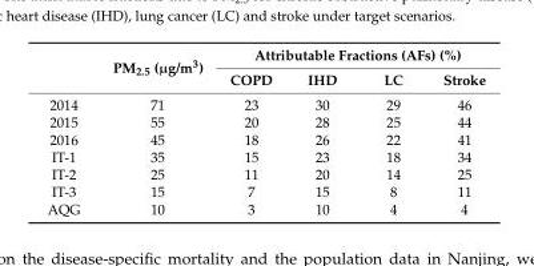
<table><thead><tr><td rowspan="2"></td><td rowspan="2">PM<sub>2.5</sub> (µg/m<sup>3</sup>)</td><td colspan="4">Attributable Fractions (AFs) (%)</td></tr><tr><td>COPD</td><td>IHD</td><td>LC</td><td>Stroke</td></tr></thead><tbody><tr><td>2014</td><td>71</td><td>23</td><td>30</td><td>29</td><td>46</td></tr><tr><td>2015</td><td>55</td><td>20</td><td>28</td><td>25</td><td>44</td></tr><tr><td>2016</td><td>45</td><td>18</td><td>26</td><td>22</td><td>41</td></tr><tr><td>IT-1</td><td>35</td><td>15</td><td>23</td><td>18</td><td>34</td></tr><tr><td>IT-2</td><td>25</td><td>11</td><td>20</td><td>14</td><td>25</td></tr><tr><td>IT-3</td><td>15</td><td>7</td><td>15</td><td>8</td><td>11</td></tr><tr><td>AQG</td><td>10</td><td>3</td><td>10</td><td>4</td><td>4</td></tr></tbody></table>